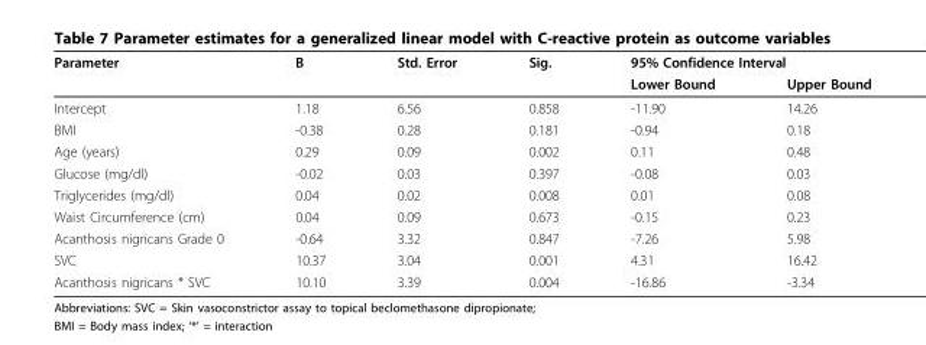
<table><thead><tr><td rowspan="2">Parameter</td><td rowspan="2">B</td><td rowspan="2">Std. Error</td><td rowspan="2">Sig.</td><td colspan="2">95% Confidence Interval</td></tr><tr><td>Lower Bound</td><td>Upper Bound</td></tr></thead><tbody><tr><td>Intercept</td><td>1.18</td><td>6.56</td><td>0.858</td><td>-11.90</td><td>14.26</td></tr><tr><td>BMI</td><td>-0.38</td><td>0.28</td><td>0.181</td><td>-0.94</td><td>0.18</td></tr><tr><td>Age (years)</td><td>0.29</td><td>0.09</td><td>0.002</td><td>0.11</td><td>0.48</td></tr><tr><td>Glucose (mg/dl)</td><td>-0.02</td><td>0.03</td><td>0.397</td><td>-0.08</td><td>0.03</td></tr><tr><td>Triglycerides (mg/dl)</td><td>0.04</td><td>0.02</td><td>0.008</td><td>0.01</td><td>0.08</td></tr><tr><td>Waist Circumference (cm)</td><td>0.04</td><td>0.09</td><td>0.673</td><td>-0.15</td><td>0.23</td></tr><tr><td>Acanthosis nigricans Grade 0</td><td>-0.64</td><td>3.32</td><td>0.847</td><td>-7.26</td><td>5.98</td></tr><tr><td>SVC</td><td>10.37</td><td>3.04</td><td>0.001</td><td>4.31</td><td>16.42</td></tr><tr><td>Acanthosis nigricans * SVC</td><td>10.10</td><td>3.39</td><td>0.004</td><td>-16.86</td><td>-3.34</td></tr></tbody></table>